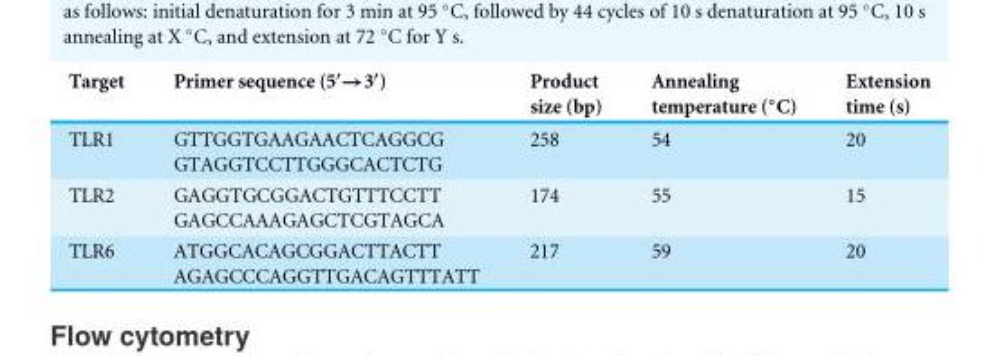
<table><thead><tr><td>Target</td><td>Primer sequence (5′→3′)</td><td>Product size (bp)</td><td>Annealing temperature (◦C)</td><td>Extension time (s)</td></tr></thead><tbody><tr><td>TLR1</td><td>GTTGGTGAAGAACTCAGGCG GTAGGTCCTTGGGCACTCTG</td><td>258</td><td>54</td><td>20</td></tr><tr><td>TLR2</td><td>GAGGTGCGGACTGTTTCCTT GAGCCAAAGAGCTCGTAGCA</td><td>174</td><td>55</td><td>15</td></tr><tr><td>TLR6</td><td>ATGGCACAGCGGACTTACTT AGAGCCCAGGTTGACAGTTTATT</td><td>217</td><td>59</td><td>20</td></tr></tbody></table>